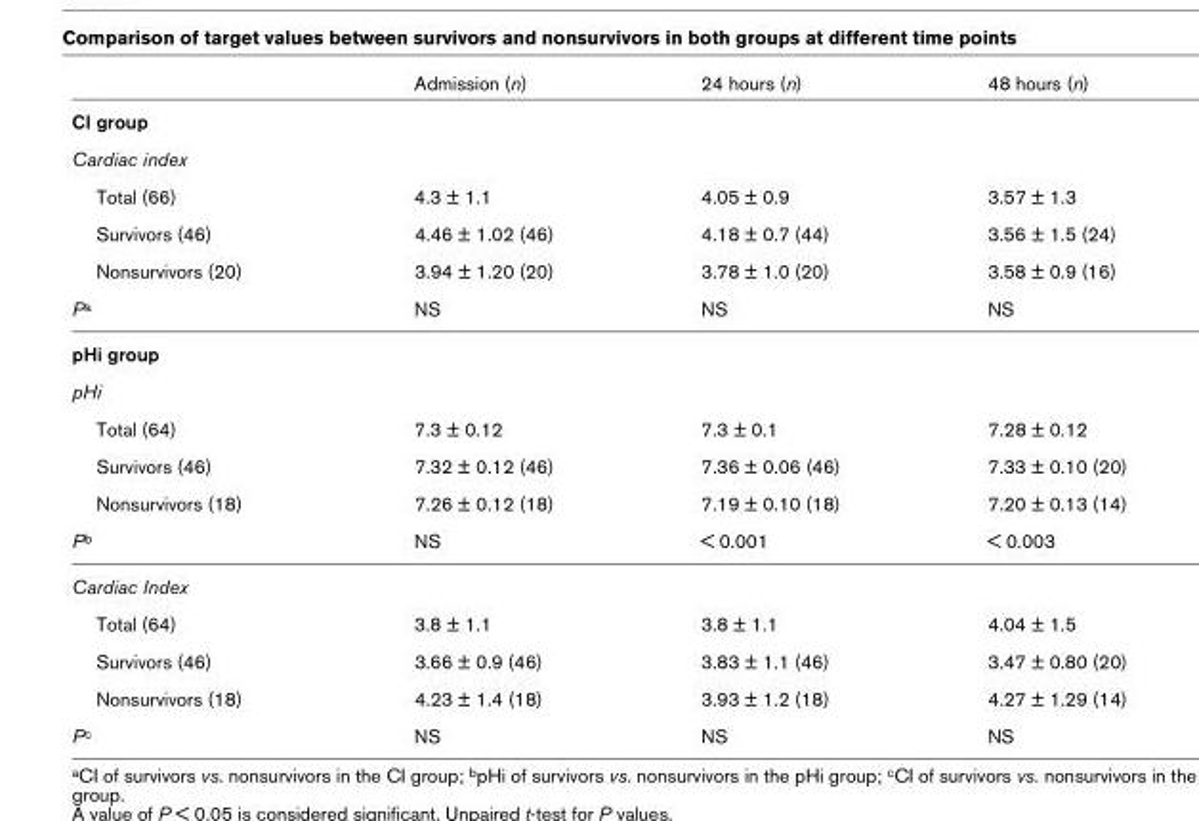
<table><thead><tr><td></td><td>Admission (n)</td><td>24 hours (n)</td><td>48 hours (n)</td></tr></thead><tbody><tr><td colspan="4">CI group</td></tr><tr><td colspan="4">Cardiac index</td></tr><tr><td>Total (66)</td><td>4.3 ± 1.1</td><td>4.05 ± 0.9</td><td>3.57 ± 1.3</td></tr><tr><td>Survivors (46)</td><td>4.46 ± 1.02 (46)</td><td>4.18 ± 0.7 (44)</td><td>3.56 ± 1.5 (24)</td></tr><tr><td>Nonsurvivors (20)</td><td>3.94 ± 1.20 (20)</td><td>3.78 ± 1.0 (20)</td><td>3.58 ± 0.9 (16)</td></tr><tr><td>P<sup>a</sup></td><td>NS</td><td>NS</td><td>NS</td></tr><tr><td colspan="4">pHi group</td></tr><tr><td colspan="4">pHi</td></tr><tr><td>Total (64)</td><td>7.3 ± 0.12</td><td>7.3 ± 0.1</td><td>7.28 ± 0.12</td></tr><tr><td>Survivors (46)</td><td>7.32 ± 0.12 (46)</td><td>7.36 ± 0.06 (46)</td><td>7.33 ± 0.10 (20)</td></tr><tr><td>Nonsurvivors (18)</td><td>7.26 ± 0.12 (18)</td><td>7.19 ± 0.10 (18)</td><td>7.20 ± 0.13 (14)</td></tr><tr><td>P<sup>b</sup></td><td>NS</td><td>&lt; 0.001</td><td>&lt; 0.003</td></tr><tr><td colspan="4">Cardiac Index</td></tr><tr><td>Total (64)</td><td>3.8 ± 1.1</td><td>3.8 ± 1.1</td><td>4.04 ± 1.5</td></tr><tr><td>Survivors (46)</td><td>3.66 ± 0.9 (46)</td><td>3.83 ± 1.1 (46)</td><td>3.47 ± 0.80 (20)</td></tr><tr><td>Nonsurvivors (18)</td><td>4.23 ± 1.4 (18)</td><td>3.93 ± 1.2 (18)</td><td>4.27 ± 1.29 (14)</td></tr><tr><td>P<sup>c</sup></td><td>NS</td><td>NS</td><td>NS</td></tr></tbody></table>